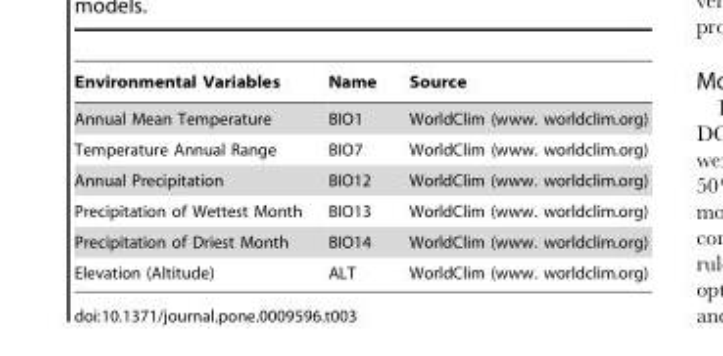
<table><thead><tr><td>Environmental Variables</td><td>Name</td><td>Source</td></tr></thead><tbody><tr><td>Annual Mean Temperature</td><td>BIO1</td><td>WorldClim (www. worldclim.org)</td></tr><tr><td>Temperature Annual Range</td><td>BIO7</td><td>WorldClim (www. worldclim.org)</td></tr><tr><td>Annual Precipitation</td><td>BIO12</td><td>WorldClim (www. worldclim.org)</td></tr><tr><td>Precipitation of Wettest Month</td><td>BIO13</td><td>WorldClim (www. worldclim.org)</td></tr><tr><td>Precipitation of Driest Month</td><td>BIO14</td><td>WorldClim (www. worldclim.org)</td></tr><tr><td>Elevation (Altitude)</td><td>ALT</td><td>WorldClim (www. worldclim.org)</td></tr></tbody></table>